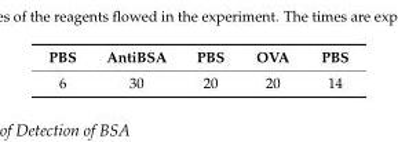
<table><thead><tr><td>PBS</td><td>AntiBSA</td><td>PBS</td><td>OVA</td><td>PBS</td></tr></thead><tbody><tr><td>6</td><td>30</td><td>20</td><td>20</td><td>14</td></tr></tbody></table>